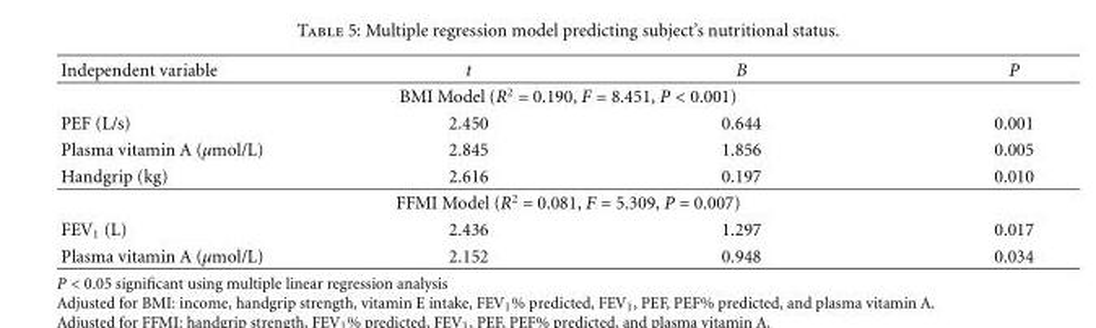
<table><thead><tr><td>Independent variable</td><td>t</td><td>B</td><td>P</td></tr></thead><tbody><tr><td colspan="4">BMI Model (R<sup>2</sup> = 0.190, F = 8.451, P &lt; 0.001)</td></tr><tr><td>PEF (L/s)</td><td>2.450</td><td>0.644</td><td>0.001</td></tr><tr><td>Plasma vitamin A (μmol/L)</td><td>2.845</td><td>1.856</td><td>0.005</td></tr><tr><td>Handgrip (kg)</td><td>2.616</td><td>0.197</td><td>0.010</td></tr><tr><td colspan="4">FFMI Model (R<sup>2</sup> = 0.081, F = 5.309, P = 0.007)</td></tr><tr><td>FEV<sub>1</sub> (L)</td><td>2.436</td><td>1.297</td><td>0.017</td></tr><tr><td>Plasma vitamin A (μmol/L)</td><td>2.152</td><td>0.948</td><td>0.034</td></tr></tbody></table>